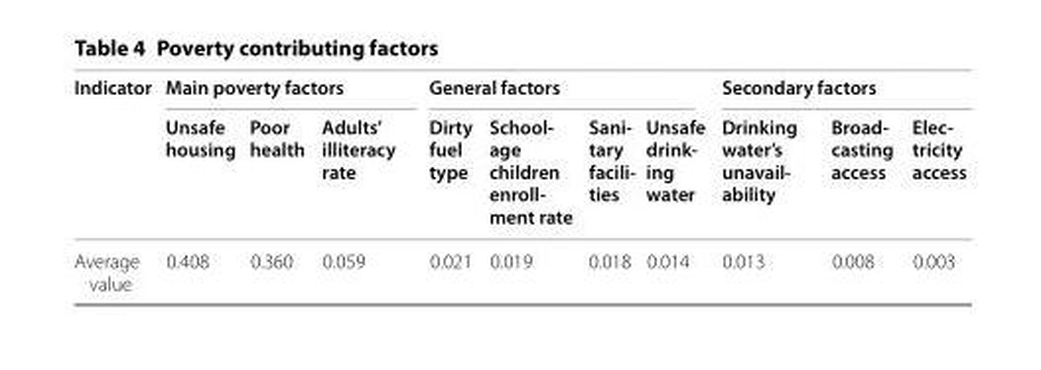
<table><thead><tr><td rowspan="2">Indicator</td><td colspan="3">Main poverty factors</td><td colspan="4">General factors</td><td colspan="3">Secondary factors</td></tr><tr><td>Unsafe housing</td><td>Poor health</td><td>Adults’ illiteracy rate</td><td>Dirty fuel type</td><td>School- age children enroll- ment rate</td><td>Sani- tary facili- ties</td><td>Unsafe drink- ing water</td><td>Drinking water’s unavail- ability</td><td>Broad- casting access</td><td>Elec- tricity access</td></tr></thead><tbody><tr><td>Average value</td><td>0.408</td><td>0.360</td><td>0.059</td><td>0.021</td><td>0.019</td><td>0.018</td><td>0.014</td><td>0.013</td><td>0.008</td><td>0.003</td></tr></tbody></table>